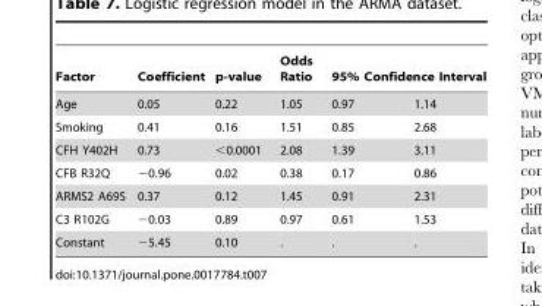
<table><thead><tr><td rowspan="2">Factor Age</td><td rowspan="2">Coefficient 0.05</td><td rowspan="2">p-value 0.22</td><td rowspan="2">Odds Ratio 1.05</td><td colspan="2">95% Confidence Interval</td></tr><tr><td>0.97</td><td>1.14</td></tr></thead><tbody><tr><td>Smoking</td><td>0.41</td><td>0.16</td><td>1.51</td><td>0.85</td><td>2.68</td></tr><tr><td>CFH Y402H</td><td>0.73</td><td>&lt;0.0001</td><td>2.08</td><td>1.39</td><td>3.11</td></tr><tr><td>CFB R32Q</td><td>−0.96</td><td>0.02</td><td>0.38</td><td>0.17</td><td>0.86</td></tr><tr><td>ARMS2 A69S</td><td>0.37</td><td>0.12</td><td>1.45</td><td>0.91</td><td>2.31</td></tr><tr><td>C3 R102G</td><td>−0.03</td><td>0.89</td><td>0.97</td><td>0.61</td><td>1.53</td></tr><tr><td>Constant</td><td>−5.45</td><td>0.10</td><td>.</td><td>.</td><td>.</td></tr></tbody></table>